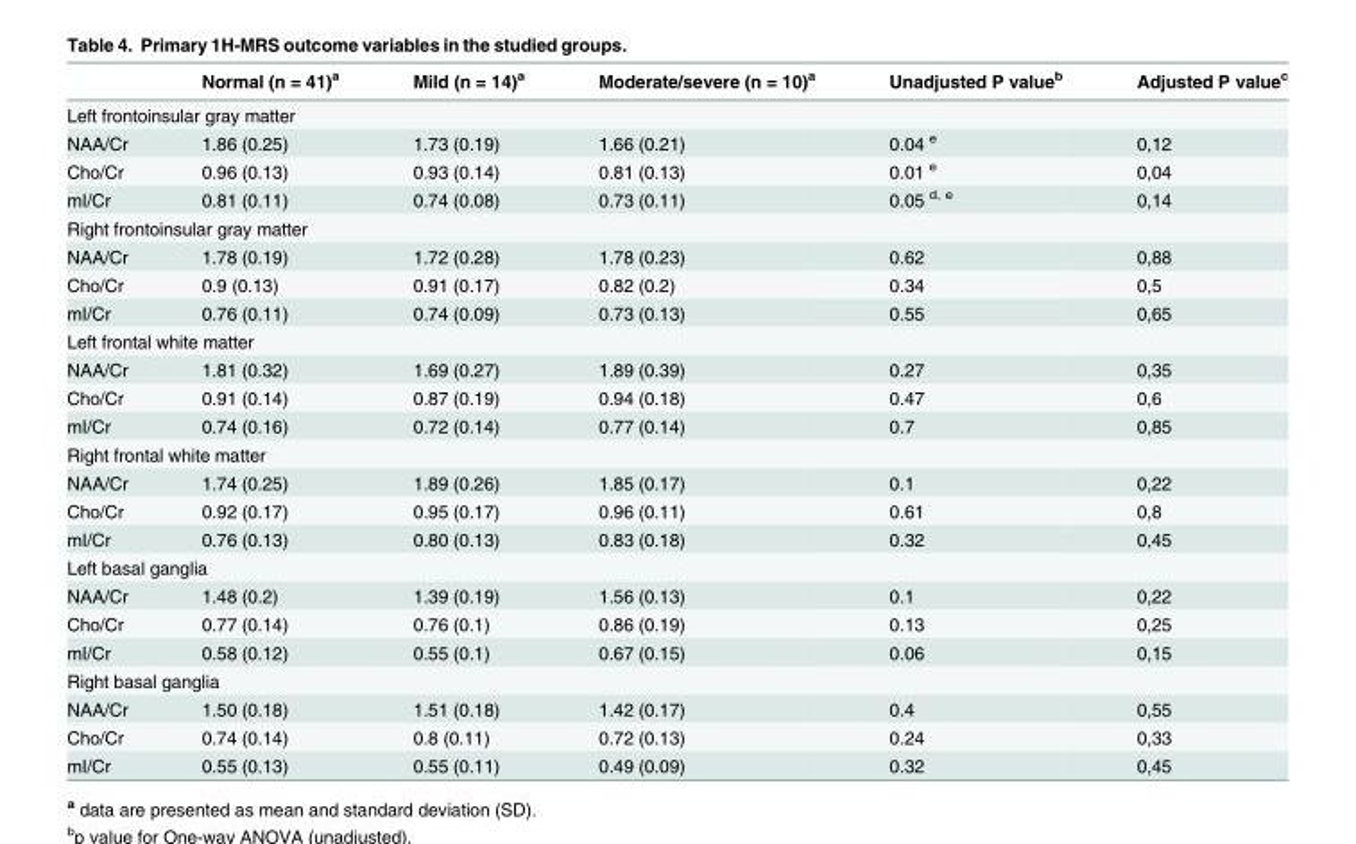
<table><thead><tr><td></td><td>Normal (n = 41)<sup>a</sup></td><td>Mild (n = 14)<sup>a</sup></td><td>Moderate/severe (n = 10)<sup>a</sup></td><td>Unadjusted P value<sup>b</sup></td><td>Adjusted P value<sup>c</sup></td></tr></thead><tbody><tr><td colspan="6">Left frontoinsular gray matter</td></tr><tr><td>NAA/Cr</td><td>1.86 (0.25)</td><td>1.73 (0.19)</td><td>1.66 (0.21)</td><td>0.04 <sup>e</sup></td><td>0,12</td></tr><tr><td>Cho/Cr</td><td>0.96 (0.13)</td><td>0.93 (0.14)</td><td>0.81 (0.13)</td><td>0.01 <sup>e</sup></td><td>0,04</td></tr><tr><td>mI/Cr</td><td>0.81 (0.11)</td><td>0.74 (0.08)</td><td>0.73 (0.11)</td><td>0.05 <sup>d, e</sup></td><td>0,14</td></tr><tr><td colspan="6">Right frontoinsular gray matter</td></tr><tr><td>NAA/Cr</td><td>1.78 (0.19)</td><td>1.72 (0.28)</td><td>1.78 (0.23)</td><td>0.62</td><td>0,88</td></tr><tr><td>Cho/Cr</td><td>0.9 (0.13)</td><td>0.91 (0.17)</td><td>0.82 (0.2)</td><td>0.34</td><td>0,5</td></tr><tr><td>mI/Cr</td><td>0.76 (0.11)</td><td>0.74 (0.09)</td><td>0.73 (0.13)</td><td>0.55</td><td>0,65</td></tr><tr><td colspan="6">Left frontal white matter</td></tr><tr><td>NAA/Cr</td><td>1.81 (0.32)</td><td>1.69 (0.27)</td><td>1.89 (0.39)</td><td>0.27</td><td>0,35</td></tr><tr><td>Cho/Cr</td><td>0.91 (0.14)</td><td>0.87 (0.19)</td><td>0.94 (0.18)</td><td>0.47</td><td>0,6</td></tr><tr><td>mI/Cr</td><td>0.74 (0.16)</td><td>0.72 (0.14)</td><td>0.77 (0.14)</td><td>0.7</td><td>0,85</td></tr><tr><td colspan="6">Right frontal white matter</td></tr><tr><td>NAA/Cr</td><td>1.74 (0.25)</td><td>1.89 (0.26)</td><td>1.85 (0.17)</td><td>0.1</td><td>0,22</td></tr><tr><td>Cho/Cr</td><td>0.92 (0.17)</td><td>0.95 (0.17)</td><td>0.96 (0.11)</td><td>0.61</td><td>0,8</td></tr><tr><td>mI/Cr</td><td>0.76 (0.13)</td><td>0.80 (0.13)</td><td>0.83 (0.18)</td><td>0.32</td><td>0,45</td></tr><tr><td colspan="6">Left basal ganglia</td></tr><tr><td>NAA/Cr</td><td>1.48 (0.2)</td><td>1.39 (0.19)</td><td>1.56 (0.13)</td><td>0.1</td><td>0,22</td></tr><tr><td>Cho/Cr</td><td>0.77 (0.14)</td><td>0.76 (0.1)</td><td>0.86 (0.19)</td><td>0.13</td><td>0,25</td></tr><tr><td>mI/Cr</td><td>0.58 (0.12)</td><td>0.55 (0.1)</td><td>0.67 (0.15)</td><td>0.06</td><td>0,15</td></tr><tr><td colspan="6">Right basal ganglia</td></tr><tr><td>NAA/Cr</td><td>1.50 (0.18)</td><td>1.51 (0.18)</td><td>1.42 (0.17)</td><td>0.4</td><td>0,55</td></tr><tr><td>Cho/Cr</td><td>0.74 (0.14)</td><td>0.8 (0.11)</td><td>0.72 (0.13)</td><td>0.24</td><td>0,33</td></tr><tr><td>mI/Cr</td><td>0.55 (0.13)</td><td>0.55 (0.11)</td><td>0.49 (0.09)</td><td>0.32</td><td>0,45</td></tr></tbody></table>